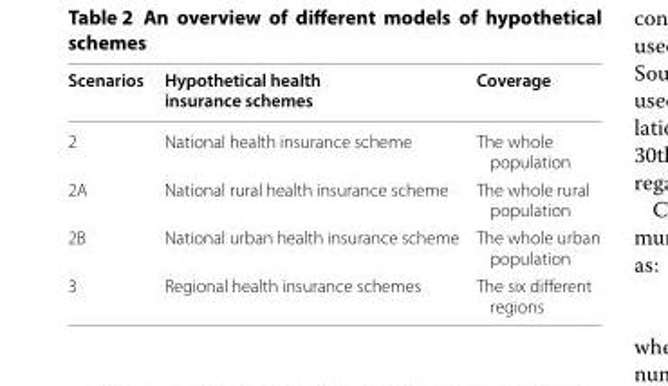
<table><thead><tr><td>Scenarios</td><td>Hypothetical health insurance schemes</td><td>Coverage</td></tr></thead><tbody><tr><td>2</td><td>National health insurance scheme</td><td>The whole population</td></tr><tr><td>2A</td><td>National rural health insurance scheme</td><td>The whole rural population</td></tr><tr><td>2B</td><td>National urban health insurance scheme</td><td>The whole urban population</td></tr><tr><td>3</td><td>Regional health insurance schemes</td><td>The six different regions</td></tr></tbody></table>